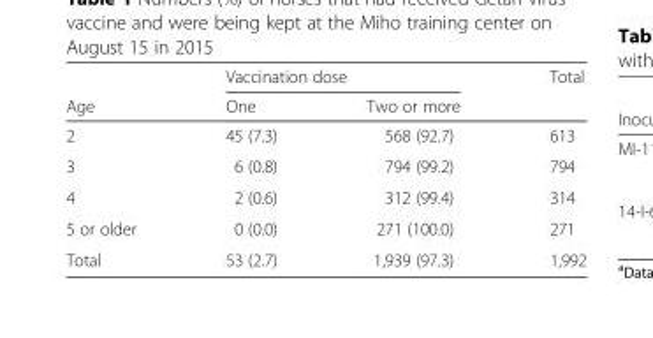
<table><thead><tr><td rowspan="2">Age</td><td colspan="2">Vaccination dose</td><td rowspan="2">Total</td></tr><tr><td>One</td><td>Two or more</td></tr></thead><tbody><tr><td>2</td><td>45 (7.3)</td><td>568 (92.7)</td><td>613</td></tr><tr><td>3</td><td>6 (0.8)</td><td>794 (99.2)</td><td>794</td></tr><tr><td>4</td><td>2 (0.6)</td><td>312 (99.4)</td><td>314</td></tr><tr><td>5 or older</td><td>0 (0.0)</td><td>271 (100.0)</td><td>271</td></tr><tr><td>Total</td><td>53 (2.7)</td><td>1,939 (97.3)</td><td>1,992</td></tr></tbody></table>